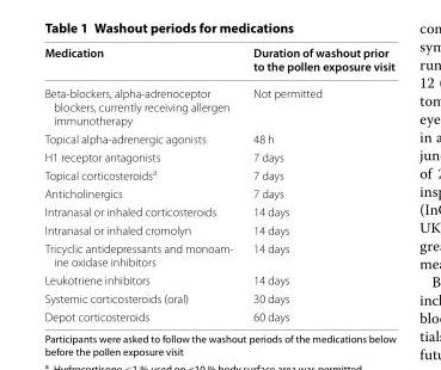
<table><thead><tr><td>Medication</td><td>Duration of washout prior to the pollen exposure visit</td></tr></thead><tbody><tr><td>Beta-blockers, alpha-adrenoceptor blockers, currently receiving allergen immunotherapy</td><td>Not permitted</td></tr><tr><td>Topical alpha-adrenergic agonists</td><td>48 h</td></tr><tr><td>H1 receptor antagonists</td><td>7 days</td></tr><tr><td>Topical corticosteroids<sup>a</sup></td><td>7 days</td></tr><tr><td>Anticholinergics</td><td>7 days</td></tr><tr><td>Intranasal or inhaled corticosteroids</td><td>14 days</td></tr><tr><td>Intranasal or inhaled cromolyn</td><td>14 days</td></tr><tr><td>Tricyclic antidepressants and monoam- ine oxidase inhibitors</td><td>14 days</td></tr><tr><td>Leukotriene inhibitors</td><td>14 days</td></tr><tr><td>Systemic corticosteroids (oral)</td><td>30 days</td></tr><tr><td>Depot corticosteroids</td><td>60 days</td></tr></tbody></table>